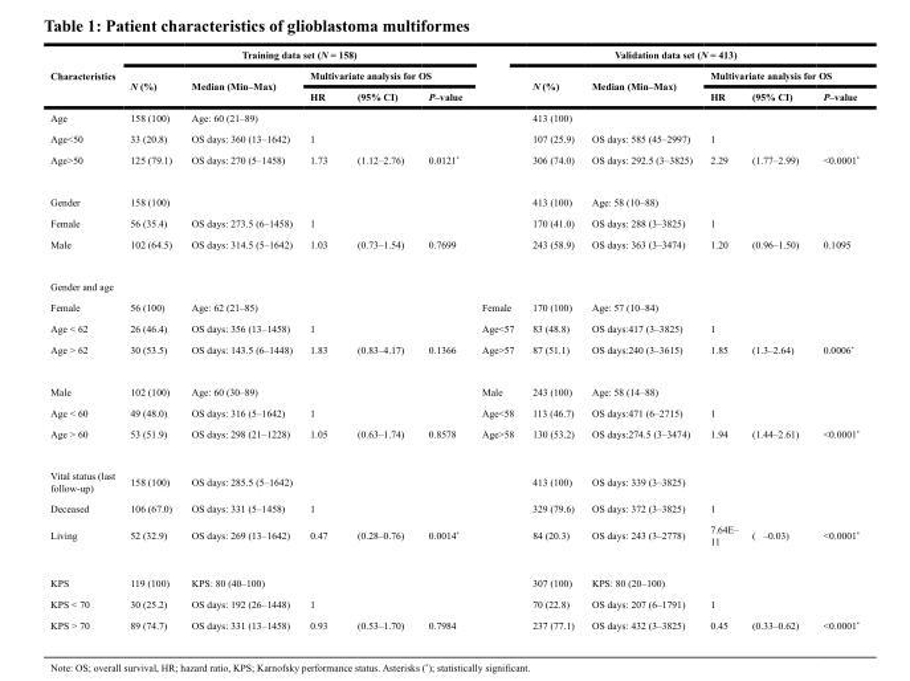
<table><thead><tr><td rowspan="3">Characteristics</td><td colspan="5">Training data set (N = 158)</td><td colspan="6">Validation data set (N = 413)</td></tr><tr><td rowspan="2">N (%)</td><td rowspan="2">Median (Min–Max)</td><td colspan="3">Multivariate analysis for OS</td><td rowspan="2"></td><td rowspan="2">N (%)</td><td rowspan="2">Median (Min–Max)</td><td colspan="3">Multivariate analysis for OS</td></tr><tr><td>HR</td><td>(95% CI)</td><td>P–value</td><td>HR</td><td>(95% CI)</td><td>P–value</td></tr></thead><tbody><tr><td>Age</td><td>158 (100)</td><td>Age: 60 (21–89)</td><td></td><td></td><td></td><td></td><td>413 (100)</td><td></td><td></td><td></td><td></td></tr><tr><td>Age&lt;50</td><td>33 (20.8)</td><td>OS days: 360 (13–1642)</td><td>1</td><td></td><td></td><td></td><td>107 (25.9)</td><td>OS days: 585 (45–2997)</td><td>1</td><td></td><td></td></tr><tr><td>Age&gt;50</td><td>125 (79.1)</td><td>OS days: 270 (5–1458)</td><td>1.73</td><td>(1.12–2.76)</td><td>0.0121*</td><td></td><td>306 (74.0)</td><td>OS days: 292.5 (3–3825)</td><td>2.29</td><td>(1.77–2.99)</td><td>&lt;0.0001*</td></tr><tr><td>Gender</td><td>158 (100)</td><td></td><td></td><td></td><td></td><td></td><td>413 (100)</td><td>Age: 58 (10–88)</td><td></td><td></td><td></td></tr><tr><td>Female</td><td>56 (35.4)</td><td>OS days: 273.5 (6–1458)</td><td>1</td><td></td><td></td><td></td><td>170 (41.0)</td><td>OS days: 288 (3–3825)</td><td>1</td><td></td><td></td></tr><tr><td>Male</td><td>102 (64.5)</td><td>OS days: 314.5 (5–1642)</td><td>1.03</td><td>(0.73–1.54)</td><td>0.7699</td><td></td><td>243 (58.9)</td><td>OS days: 363 (3–3474)</td><td>1.20</td><td>(0.96–1.50)</td><td>0.1095</td></tr><tr><td colspan="12">Gender and age</td></tr><tr><td>Female</td><td>56 (100)</td><td>Age: 62 (21–85)</td><td></td><td></td><td></td><td>Female</td><td>170 (100)</td><td>Age: 57 (10–84)</td><td></td><td></td><td></td></tr><tr><td>Age &lt; 62</td><td>26 (46.4)</td><td>OS days: 356 (13–1458)</td><td>1</td><td></td><td></td><td>Age&lt;57</td><td>83 (48.8)</td><td>OS days:417 (3–3825)</td><td>1</td><td></td><td></td></tr><tr><td>Age &gt; 62</td><td>30 (53.5)</td><td>OS days: 143.5 (6–1448)</td><td>1.83</td><td>(0.83–4.17)</td><td>0.1366</td><td>Age&gt;57</td><td>87 (51.1)</td><td>OS days:240 (3–3615)</td><td>1.85</td><td>(1.3–2.64)</td><td>0.0006*</td></tr><tr><td>Male</td><td>102 (100)</td><td>Age: 60 (30–89)</td><td></td><td></td><td></td><td>Male</td><td>243 (100)</td><td>Age: 58 (14–88)</td><td></td><td></td><td></td></tr><tr><td>Age &lt; 60</td><td>49 (48.0)</td><td>OS days: 316 (5–1642)</td><td>1</td><td></td><td></td><td>Age&lt;58</td><td>113 (46.7)</td><td>OS days:471 (6–2715)</td><td>1</td><td></td><td></td></tr><tr><td>Age &gt; 60</td><td>53 (51.9)</td><td>OS days: 298 (21–1228)</td><td>1.05</td><td>(0.63–1.74)</td><td>0.8578</td><td>Age&gt;58</td><td>130 (53.2)</td><td>OS days:274.5 (3–3474)</td><td>1.94</td><td>(1.44–2.61)</td><td>&lt;0.0001*</td></tr><tr><td>Vital status (last follow-up)</td><td>158 (100)</td><td>OS days: 285.5 (5–1642)</td><td></td><td></td><td></td><td></td><td>413 (100)</td><td>OS days: 339 (3–3825)</td><td></td><td></td><td></td></tr><tr><td>Deceased</td><td>106 (67.0)</td><td>OS days: 331 (5–1458)</td><td>1</td><td></td><td></td><td></td><td>329 (79.6)</td><td>OS days: 372 (3–3825)</td><td>1</td><td></td><td></td></tr><tr><td>Living</td><td>52 (32.9)</td><td>OS days: 269 (13–1642)</td><td>0.47</td><td>(0.28–0.76)</td><td>0.0014*</td><td></td><td>84 (20.3)</td><td>OS days: 243 (3–2778)</td><td>7.64E– 11</td><td>( –0.03)</td><td>&lt;0.0001*</td></tr><tr><td>KPS</td><td>119 (100)</td><td>KPS: 80 (40–100)</td><td></td><td></td><td></td><td></td><td>307 (100)</td><td>KPS: 80 (20–100)</td><td></td><td></td><td></td></tr><tr><td>KPS &lt; 70</td><td>30 (25.2)</td><td>OS days: 192 (26–1448)</td><td>1</td><td></td><td></td><td></td><td>70 (22.8)</td><td>OS days: 207 (6–1791)</td><td>1</td><td></td><td></td></tr><tr><td>KPS &gt; 70</td><td>89 (74.7)</td><td>OS days: 331 (13–1458)</td><td>0.93</td><td>(0.53–1.70)</td><td>0.7984</td><td></td><td>237 (77.1)</td><td>OS days: 432 (3–3825)</td><td>0.45</td><td>(0.33–0.62)</td><td>&lt;0.0001*</td></tr></tbody></table>